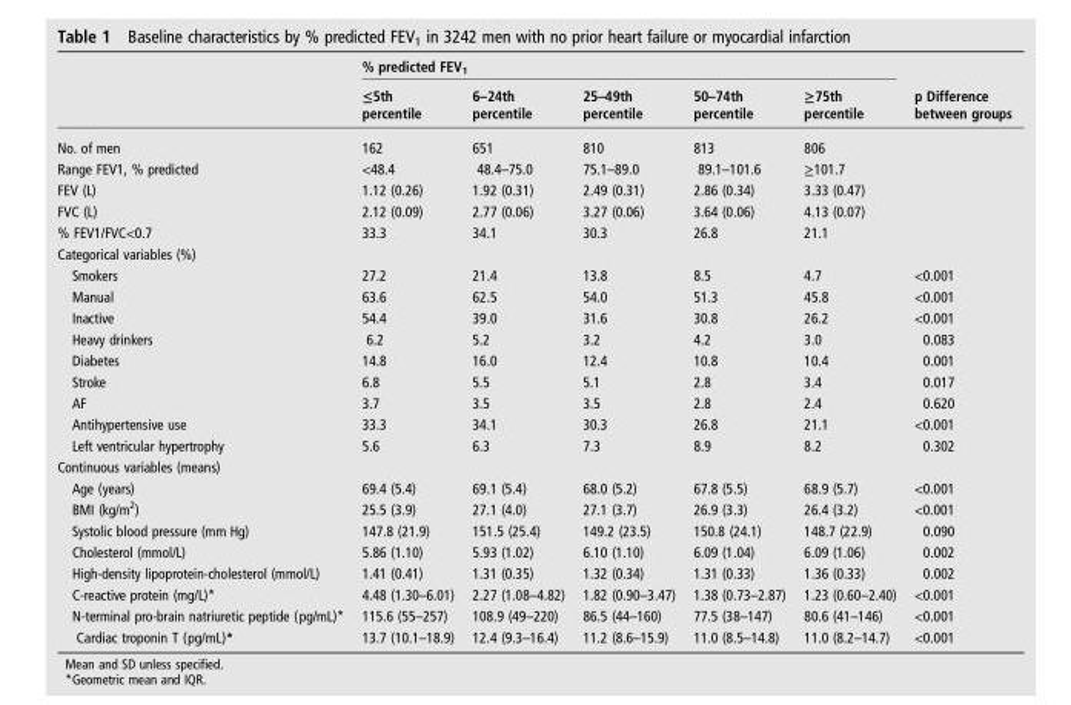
<table><thead><tr><td rowspan="2"></td><td colspan="5">% predicted FEV<sub>1</sub></td><td rowspan="2">p Difference between groups</td></tr><tr><td>≤5th percentile</td><td>6–24th percentile</td><td>25–49th percentile</td><td>50–74th percentile</td><td>≥75th percentile</td></tr></thead><tbody><tr><td>No. of men</td><td>162</td><td>651</td><td>810</td><td>813</td><td>806</td><td></td></tr><tr><td>Range FEV1, % predicted</td><td>&lt;48.4</td><td>48.4–75.0</td><td>75.1–89.0</td><td>89.1–101.6</td><td>≥101.7</td><td></td></tr><tr><td>FEV (L)</td><td>1.12 (0.26)</td><td>1.92 (0.31)</td><td>2.49 (0.31)</td><td>2.86 (0.34)</td><td>3.33 (0.47)</td><td></td></tr><tr><td>FVC (L)</td><td>2.12 (0.09)</td><td>2.77 (0.06)</td><td>3.27 (0.06)</td><td>3.64 (0.06)</td><td>4.13 (0.07)</td><td></td></tr><tr><td>% FEV1/FVC&lt;0.7</td><td>33.3</td><td>34.1</td><td>30.3</td><td>26.8</td><td>21.1</td><td></td></tr><tr><td colspan="7">Categorical variables (%)</td></tr><tr><td>Smokers</td><td>27.2</td><td>21.4</td><td>13.8</td><td>8.5</td><td>4.7</td><td>&lt;0.001</td></tr><tr><td>Manual</td><td>63.6</td><td>62.5</td><td>54.0</td><td>51.3</td><td>45.8</td><td>&lt;0.001</td></tr><tr><td>Inactive</td><td>54.4</td><td>39.0</td><td>31.6</td><td>30.8</td><td>26.2</td><td>&lt;0.001</td></tr><tr><td>Heavy drinkers</td><td>6.2</td><td>5.2</td><td>3.2</td><td>4.2</td><td>3.0</td><td>0.083</td></tr><tr><td>Diabetes</td><td>14.8</td><td>16.0</td><td>12.4</td><td>10.8</td><td>10.4</td><td>0.001</td></tr><tr><td>Stroke</td><td>6.8</td><td>5.5</td><td>5.1</td><td>2.8</td><td>3.4</td><td>0.017</td></tr><tr><td>AF</td><td>3.7</td><td>3.5</td><td>3.5</td><td>2.8</td><td>2.4</td><td>0.620</td></tr><tr><td>Antihypertensive use</td><td>33.3</td><td>34.1</td><td>30.3</td><td>26.8</td><td>21.1</td><td>&lt;0.001</td></tr><tr><td>Left ventricular hypertrophy</td><td>5.6</td><td>6.3</td><td>7.3</td><td>8.9</td><td>8.2</td><td>0.302</td></tr><tr><td colspan="7">Continuous variables (means)</td></tr><tr><td>Age (years)</td><td>69.4 (5.4)</td><td>69.1 (5.4)</td><td>68.0 (5.2)</td><td>67.8 (5.5)</td><td>68.9 (5.7)</td><td>&lt;0.001</td></tr><tr><td>BMI (kg/m<sup>2</sup>)</td><td>25.5 (3.9)</td><td>27.1 (4.0)</td><td>27.1 (3.7)</td><td>26.9 (3.3)</td><td>26.4 (3.2)</td><td>&lt;0.001</td></tr><tr><td>Systolic blood pressure (mm Hg)</td><td>147.8 (21.9)</td><td>151.5 (25.4)</td><td>149.2 (23.5)</td><td>150.8 (24.1)</td><td>148.7 (22.9)</td><td>0.090</td></tr><tr><td>Cholesterol (mmol/L)</td><td>5.86 (1.10)</td><td>5.93 (1.02)</td><td>6.10 (1.10)</td><td>6.09 (1.04)</td><td>6.09 (1.06)</td><td>0.002</td></tr><tr><td>High-density lipoprotein-cholesterol (mmol/L)</td><td>1.41 (0.41)</td><td>1.31 (0.35)</td><td>1.32 (0.34)</td><td>1.31 (0.33)</td><td>1.36 (0.33)</td><td>0.002</td></tr><tr><td>C-reactive protein (mg/L)*</td><td>4.48 (1.30–6.01)</td><td>2.27 (1.08–4.82)</td><td>1.82 (0.90–3.47)</td><td>1.38 (0.73–2.87)</td><td>1.23 (0.60–2.40)</td><td>&lt;0.001</td></tr><tr><td>N-terminal pro-brain natriuretic peptide (pg/mL)*</td><td>115.6 (55–257)</td><td>108.9 (49–220)</td><td>86.5 (44–160)</td><td>77.5 (38–147)</td><td>80.6 (41–146)</td><td>&lt;0.001</td></tr><tr><td>Cardiac troponin T (pg/mL)*</td><td>13.7 (10.1–18.9)</td><td>12.4 (9.3–16.4)</td><td>11.2 (8.6–15.9)</td><td>11.0 (8.5–14.8)</td><td>11.0 (8.2–14.7)</td><td>&lt;0.001</td></tr></tbody></table>